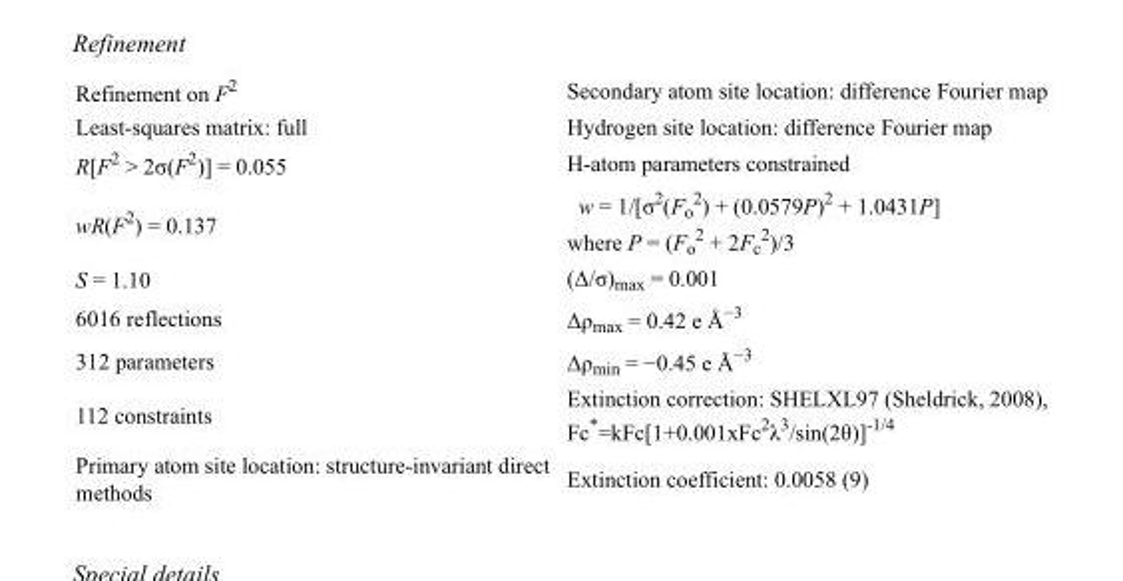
<table><tbody><tr><td>Refinement on F<sup>2</sup></td><td>Secondary atom site location: difference Fourier map</td></tr><tr><td>Least-squares matrix: full</td><td>Hydrogen site location: difference Fourier map</td></tr><tr><td>R[F<sup>2</sup> &gt; 2σ(F<sup>2</sup>)] = 0.055</td><td>H-atom parameters constrained</td></tr><tr><td>wR(F<sup>2</sup>) = 0.137</td><td>w = 1/[σ<sup>2</sup>(F<sub>o</sub> <sup>2</sup>) + (0.0579P)<sup>2</sup> + 1.0431P] where P = (F<sub>o</sub> <sup>2</sup> + 2F<sub>c</sub> <sup>2</sup>)/3</td></tr><tr><td>S = 1.10</td><td>(Δ/σ)<sub>max</sub> = 0.001</td></tr><tr><td>6016 reflections</td><td>Δρ<sub>max</sub> = 0.42 e Å<sup>−3</sup></td></tr><tr><td>312 parameters</td><td>Δρ<sub>min</sub> = −0.45 e Å<sup>−3</sup></td></tr><tr><td>112 constraints</td><td>Extinction correction: SHELXL97 (Sheldrick, 2008), Fc*=kFc[1+0.001xFc<sup>2</sup>λ<sup>3</sup>/sin(2θ)]<sup>-1/4</sup></td></tr><tr><td>Primary atom site location: structure-invariant direct methods</td><td>Extinction coefficient: 0.0058 (9)</td></tr></tbody></table>